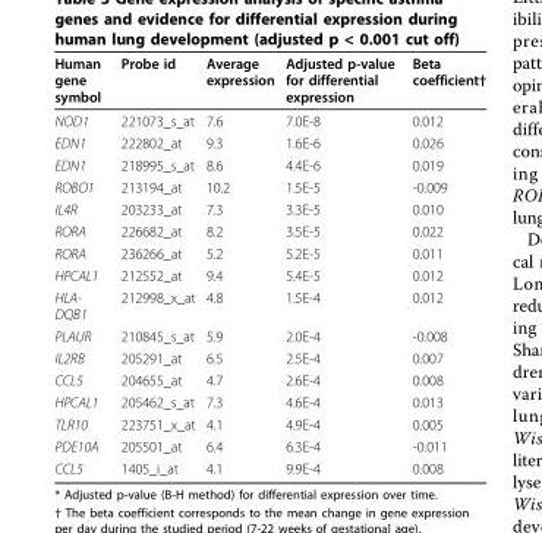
<table><thead><tr><td>Human gene symbol</td><td>Probe id</td><td>Average expression</td><td>Adjusted p-value for differential expression</td><td>Beta coefficient†</td></tr></thead><tbody><tr><td>NOD1</td><td>221073_s_at</td><td>7.6</td><td>7.0E-8</td><td>0.012</td></tr><tr><td>EDN1</td><td>222802_at</td><td>9.3</td><td>1.6E-6</td><td>0.026</td></tr><tr><td>EDN1</td><td>218995_s_at</td><td>8.6</td><td>4.4E-6</td><td>0.019</td></tr><tr><td>ROBO1</td><td>213194_at</td><td>10.2</td><td>1.5E-5</td><td>-0.009</td></tr><tr><td>IL4R</td><td>203233_at</td><td>7.3</td><td>3.3E-5</td><td>0.010</td></tr><tr><td>RORA</td><td>226682_at</td><td>8.2</td><td>3.5E-5</td><td>0.022</td></tr><tr><td>RORA</td><td>236266_at</td><td>5.2</td><td>5.2E-5</td><td>0.011</td></tr><tr><td>HPCAL1</td><td>212552_at</td><td>9.4</td><td>5.4E-5</td><td>0.012</td></tr><tr><td>HLA- DQB1</td><td>212998_x_at</td><td>4.8</td><td>1.5E-4</td><td>0.012</td></tr><tr><td>PLAUR</td><td>210845_s_at</td><td>5.9</td><td>2.0E-4</td><td>-0.008</td></tr><tr><td>IL2RB</td><td>205291_at</td><td>6.5</td><td>2.5E-4</td><td>0.007</td></tr><tr><td>CCL5</td><td>204655_at</td><td>4.7</td><td>2.6E-4</td><td>0.008</td></tr><tr><td>HPCAL1</td><td>205462_s_at</td><td>7.3</td><td>4.6E-4</td><td>0.013</td></tr><tr><td>TLR10</td><td>223751_x_at</td><td>4.1</td><td>4.9E-4</td><td>0.005</td></tr><tr><td>PDE10A</td><td>205501_at</td><td>6.4</td><td>6.3E-4</td><td>-0.011</td></tr><tr><td>CCL5</td><td>1405_i_at</td><td>4.1</td><td>9.9E-4</td><td>0.008</td></tr></tbody></table>